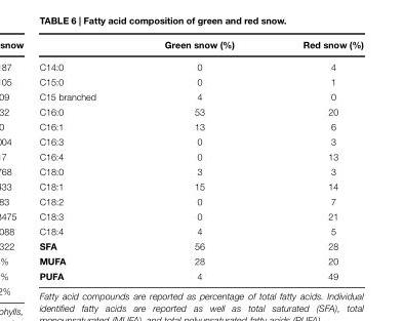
<table><thead><tr><td></td><td>Green snow (%)</td><td>Red snow (%)</td></tr></thead><tbody><tr><td>C14:0</td><td>0</td><td>4</td></tr><tr><td>C15:0</td><td>0</td><td>1</td></tr><tr><td>C15 branched</td><td>4</td><td>0</td></tr><tr><td>C16:0</td><td>53</td><td>20</td></tr><tr><td>C16:1</td><td>13</td><td>6</td></tr><tr><td>C16:3</td><td>0</td><td>3</td></tr><tr><td>C16:4</td><td>0</td><td>13</td></tr><tr><td>C18:0</td><td>3</td><td>3</td></tr><tr><td>C18:1</td><td>15</td><td>14</td></tr><tr><td>C18:2</td><td>0</td><td>7</td></tr><tr><td>C18:3</td><td>0</td><td>21</td></tr><tr><td>C18:4</td><td>4</td><td>5</td></tr><tr><td>SFA</td><td>56</td><td>28</td></tr><tr><td>MUFA</td><td>28</td><td>20</td></tr><tr><td>PUFA</td><td>4</td><td>49</td></tr></tbody></table>